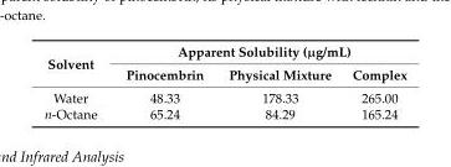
<table><thead><tr><td rowspan="2">Solvent</td><td colspan="3">Apparent Solubility (µg/mL)</td></tr><tr><td>Pinocembrin</td><td>Physical Mixture</td><td>Complex</td></tr></thead><tbody><tr><td>Water</td><td>48.33</td><td>178.33</td><td>265.00</td></tr><tr><td>n-Octane</td><td>65.24</td><td>84.29</td><td>165.24</td></tr></tbody></table>